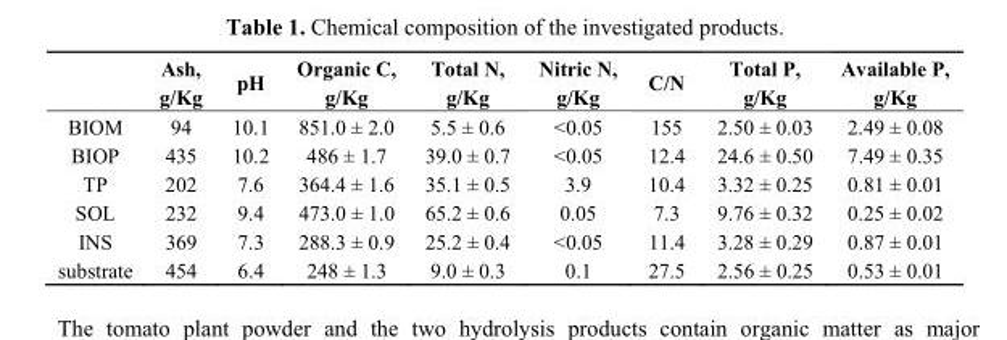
<table><thead><tr><td></td><td>Ash, g/Kg</td><td>pH</td><td>Organic C, g/Kg</td><td>Total N, g/Kg</td><td>Nitric N, g/Kg</td><td>C/N</td><td>Total P, g/Kg</td><td>Available P, g/Kg</td></tr></thead><tbody><tr><td>BIOM</td><td>94</td><td>10.1</td><td>851.0 ± 2.0</td><td>5.5 ± 0.6</td><td>&lt;0.05</td><td>155</td><td>2.50 ± 0.03</td><td>2.49 ± 0.08</td></tr><tr><td>BIOP</td><td>435</td><td>10.2</td><td>486 ± 1.7</td><td>39.0 ± 0.7</td><td>&lt;0.05</td><td>12.4</td><td>24.6 ± 0.50</td><td>7.49 ± 0.35</td></tr><tr><td>TP</td><td>202</td><td>7.6</td><td>364.4 ± 1.6</td><td>35.1 ± 0.5</td><td>3.9</td><td>10.4</td><td>3.32 ± 0.25</td><td>0.81 ± 0.01</td></tr><tr><td>SOL</td><td>232</td><td>9.4</td><td>473.0 ± 1.0</td><td>65.2 ± 0.6</td><td>0.05</td><td>7.3</td><td>9.76 ± 0.32</td><td>0.25 ± 0.02</td></tr><tr><td>INS</td><td>369</td><td>7.3</td><td>288.3 ± 0.9</td><td>25.2 ± 0.4</td><td>&lt;0.05</td><td>11.4</td><td>3.28 ± 0.29</td><td>0.87 ± 0.01</td></tr><tr><td>substrate</td><td>454</td><td>6.4</td><td>248 ± 1.3</td><td>9.0 ± 0.3</td><td>0.1</td><td>27.5</td><td>2.56 ± 0.25</td><td>0.53 ± 0.01</td></tr></tbody></table>